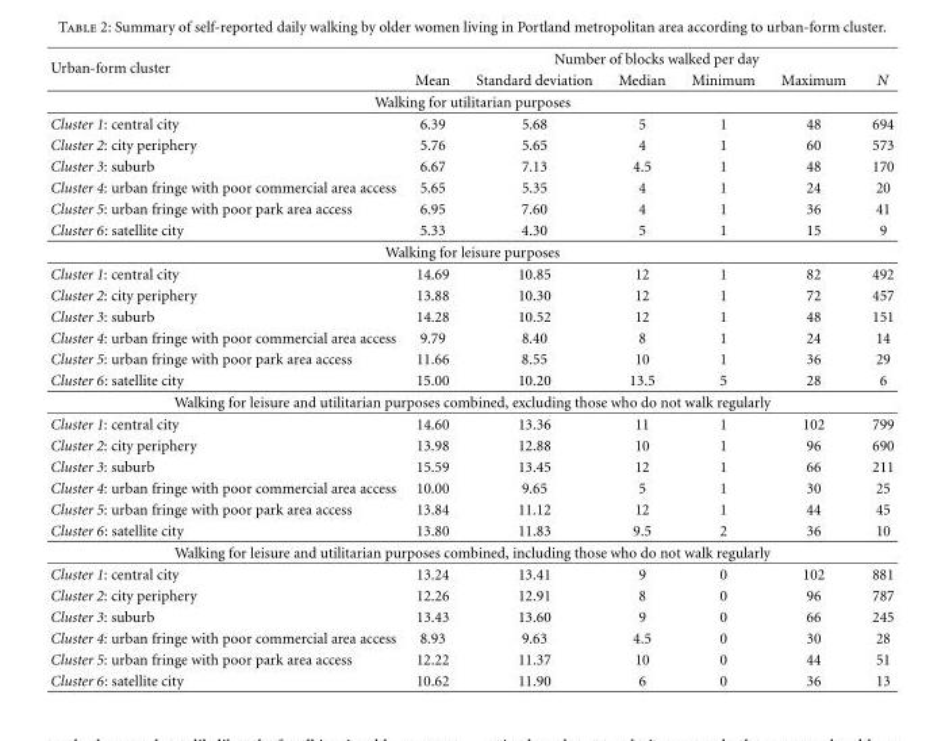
<table><thead><tr><td rowspan="2">Urban-form cluster</td><td colspan="6">Number of blocks walked per day</td></tr><tr><td>Mean</td><td>Standard deviation</td><td>Median</td><td>Minimum</td><td>Maximum</td><td>N</td></tr></thead><tbody><tr><td colspan="7">Walking for utilitarian purposes</td></tr><tr><td>Cluster 1: central city</td><td>6.39</td><td>5.68</td><td>5</td><td>1</td><td>48</td><td>694</td></tr><tr><td>Cluster 2: city periphery</td><td>5.76</td><td>5.65</td><td>4</td><td>1</td><td>60</td><td>573</td></tr><tr><td>Cluster 3: suburb</td><td>6.67</td><td>7.13</td><td>4.5</td><td>1</td><td>48</td><td>170</td></tr><tr><td>Cluster 4: urban fringe with poor commercial area access</td><td>5.65</td><td>5.35</td><td>4</td><td>1</td><td>24</td><td>20</td></tr><tr><td>Cluster 5: urban fringe with poor park area access</td><td>6.95</td><td>7.60</td><td>4</td><td>1</td><td>36</td><td>41</td></tr><tr><td>Cluster 6: satellite city</td><td>5.33</td><td>4.30</td><td>5</td><td>1</td><td>15</td><td>9</td></tr><tr><td colspan="7">Walking for leisure purposes</td></tr><tr><td>Cluster 1: central city</td><td>14.69</td><td>10.85</td><td>12</td><td>1</td><td>82</td><td>492</td></tr><tr><td>Cluster 2: city periphery</td><td>13.88</td><td>10.30</td><td>12</td><td>1</td><td>72</td><td>457</td></tr><tr><td>Cluster 3: suburb</td><td>14.28</td><td>10.52</td><td>12</td><td>1</td><td>48</td><td>151</td></tr><tr><td>Cluster 4: urban fringe with poor commercial area access</td><td>9.79</td><td>8.40</td><td>8</td><td>1</td><td>24</td><td>14</td></tr><tr><td>Cluster 5: urban fringe with poor park area access</td><td>11.66</td><td>8.55</td><td>10</td><td>1</td><td>36</td><td>29</td></tr><tr><td>Cluster 6: satellite city</td><td>15.00</td><td>10.20</td><td>13.5</td><td>5</td><td>28</td><td>6</td></tr><tr><td colspan="7">Walking for leisure and utilitarian purposes combined, excluding those who do not walk regularly</td></tr><tr><td>Cluster 1: central city</td><td>14.60</td><td>13.36</td><td>11</td><td>1</td><td>102</td><td>799</td></tr><tr><td>Cluster 2: city periphery</td><td>13.98</td><td>12.88</td><td>10</td><td>1</td><td>96</td><td>690</td></tr><tr><td>Cluster 3: suburb</td><td>15.59</td><td>13.45</td><td>12</td><td>1</td><td>66</td><td>211</td></tr><tr><td>Cluster 4: urban fringe with poor commercial area access</td><td>10.00</td><td>9.65</td><td>5</td><td>1</td><td>30</td><td>25</td></tr><tr><td>Cluster 5: urban fringe with poor park area access</td><td>13.84</td><td>11.12</td><td>12</td><td>1</td><td>44</td><td>45</td></tr><tr><td>Cluster 6: satellite city</td><td>13.80</td><td>11.83</td><td>9.5</td><td>2</td><td>36</td><td>10</td></tr><tr><td colspan="7">Walking for leisure and utilitarian purposes combined, including those who do not walk regularly</td></tr><tr><td>Cluster 1: central city</td><td>13.24</td><td>13.41</td><td>9</td><td>0</td><td>102</td><td>881</td></tr><tr><td>Cluster 2: city periphery</td><td>12.26</td><td>12.91</td><td>8</td><td>0</td><td>96</td><td>787</td></tr><tr><td>Cluster 3: suburb</td><td>13.43</td><td>13.60</td><td>9</td><td>0</td><td>66</td><td>245</td></tr><tr><td>Cluster 4: urban fringe with poor commercial area access</td><td>8.93</td><td>9.63</td><td>4.5</td><td>0</td><td>30</td><td>28</td></tr><tr><td>Cluster 5: urban fringe with poor park area access</td><td>12.22</td><td>11.37</td><td>10</td><td>0</td><td>44</td><td>51</td></tr><tr><td>Cluster 6: satellite city</td><td>10.62</td><td>11.90</td><td>6</td><td>0</td><td>36</td><td>13</td></tr></tbody></table>